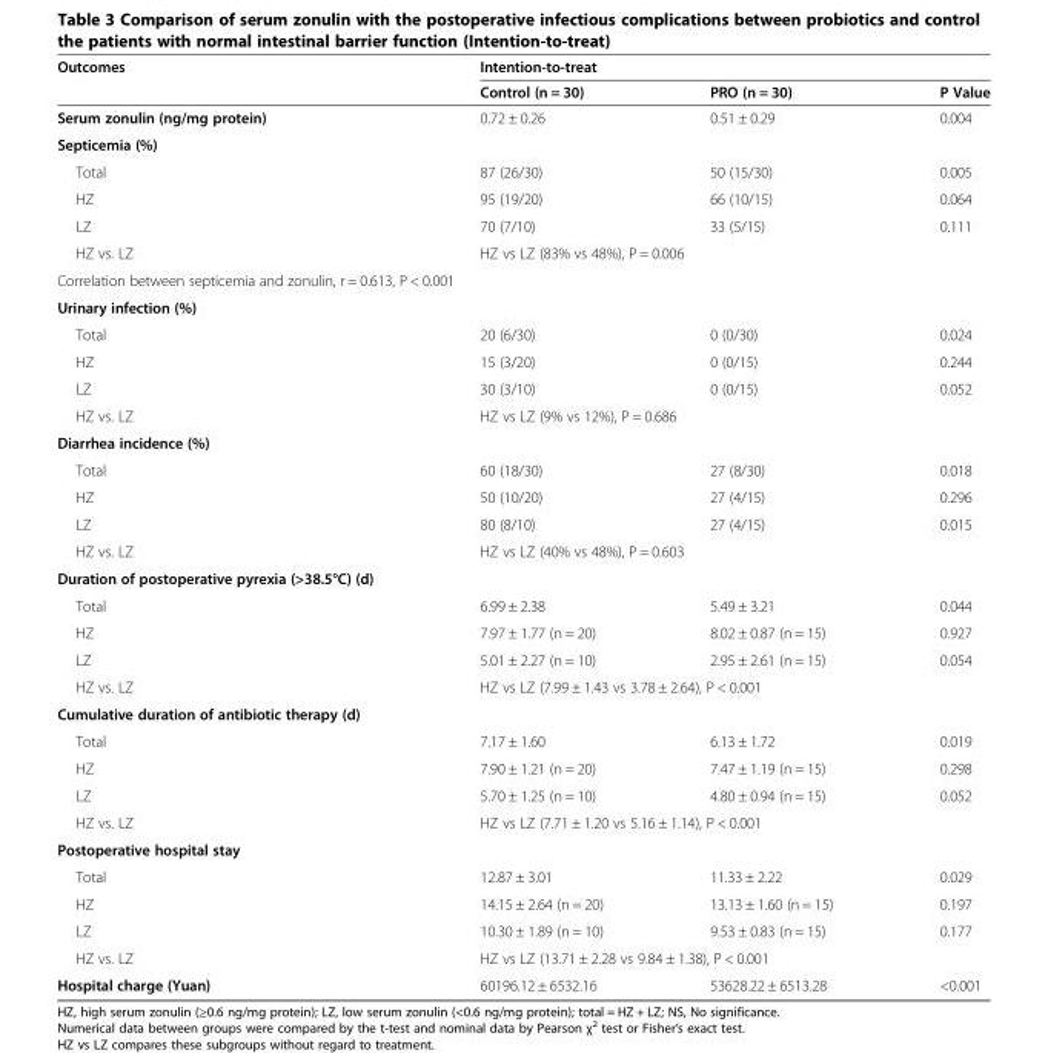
<table><thead><tr><td rowspan="2">Outcomes</td><td colspan="3">Intention-to-treat</td></tr><tr><td>Control (n = 30)</td><td>PRO (n = 30)</td><td>P Value</td></tr></thead><tbody><tr><td>Serum zonulin (ng/mg protein)</td><td>0.72 ± 0.26</td><td>0.51 ± 0.29</td><td>0.004</td></tr><tr><td colspan="4">Septicemia (%)</td></tr><tr><td>Total</td><td>87 (26/30)</td><td>50 (15/30)</td><td>0.005</td></tr><tr><td>HZ</td><td>95 (19/20)</td><td>66 (10/15)</td><td>0.064</td></tr><tr><td>LZ</td><td>70 (7/10)</td><td>33 (5/15)</td><td>0.111</td></tr><tr><td>HZ vs. LZ</td><td colspan="3">HZ vs LZ (83% vs 48%), P = 0.006</td></tr><tr><td colspan="4">Correlation between septicemia and zonulin, r = 0.613, P &lt; 0.001</td></tr><tr><td colspan="4">Urinary infection (%)</td></tr><tr><td>Total</td><td>20 (6/30)</td><td>0 (0/30)</td><td>0.024</td></tr><tr><td>HZ</td><td>15 (3/20)</td><td>0 (0/15)</td><td>0.244</td></tr><tr><td>LZ</td><td>30 (3/10)</td><td>0 (0/15)</td><td>0.052</td></tr><tr><td>HZ vs. LZ</td><td colspan="3">HZ vs LZ (9% vs 12%), P = 0.686</td></tr><tr><td colspan="4">Diarrhea incidence (%)</td></tr><tr><td>Total</td><td>60 (18/30)</td><td>27 (8/30)</td><td>0.018</td></tr><tr><td>HZ</td><td>50 (10/20)</td><td>27 (4/15)</td><td>0.296</td></tr><tr><td>LZ</td><td>80 (8/10)</td><td>27 (4/15)</td><td>0.015</td></tr><tr><td>HZ vs. LZ</td><td colspan="3">HZ vs LZ (40% vs 48%), P = 0.603</td></tr><tr><td colspan="4">Duration of postoperative pyrexia (&gt;38.5°C) (d)</td></tr><tr><td>Total</td><td>6.99 ± 2.38</td><td>5.49 ± 3.21</td><td>0.044</td></tr><tr><td>HZ</td><td>7.97 ± 1.77 (n = 20)</td><td>8.02 ± 0.87 (n = 15)</td><td>0.927</td></tr><tr><td>LZ</td><td>5.01 ± 2.27 (n = 10)</td><td>2.95 ± 2.61 (n = 15)</td><td>0.054</td></tr><tr><td>HZ vs. LZ</td><td colspan="3">HZ vs LZ (7.99 ± 1.43 vs 3.78 ± 2.64), P &lt; 0.001</td></tr><tr><td colspan="4">Cumulative duration of antibiotic therapy (d)</td></tr><tr><td>Total</td><td>7.17 ± 1.60</td><td>6.13 ± 1.72</td><td>0.019</td></tr><tr><td>HZ</td><td>7.90 ± 1.21 (n = 20)</td><td>7.47 ± 1.19 (n = 15)</td><td>0.298</td></tr><tr><td>LZ</td><td>5.70 ± 1.25 (n = 10)</td><td>4.80 ± 0.94 (n = 15)</td><td>0.052</td></tr><tr><td>HZ vs. LZ</td><td colspan="3">HZ vs LZ (7.71 ± 1.20 vs 5.16 ± 1.14), P &lt; 0.001</td></tr><tr><td colspan="4">Postoperative hospital stay</td></tr><tr><td>Total</td><td>12.87 ± 3.01</td><td>11.33 ± 2.22</td><td>0.029</td></tr><tr><td>HZ</td><td>14.15 ± 2.64 (n = 20)</td><td>13.13 ± 1.60 (n = 15)</td><td>0.197</td></tr><tr><td>LZ</td><td>10.30 ± 1.89 (n = 10)</td><td>9.53 ± 0.83 (n = 15)</td><td>0.177</td></tr><tr><td>HZ vs. LZ</td><td colspan="3">HZ vs LZ (13.71 ± 2.28 vs 9.84 ± 1.38), P &lt; 0.001</td></tr><tr><td>Hospital charge (Yuan)</td><td>60196.12 ± 6532.16</td><td>53628.22 ± 6513.28</td><td>&lt;0.001</td></tr></tbody></table>